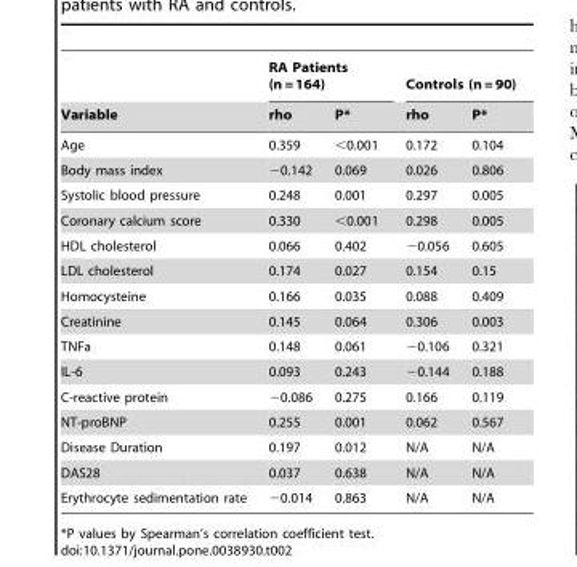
<table><thead><tr><td rowspan="2">Variable</td><td colspan="2">RA Patients (n = 164)</td><td colspan="2">Controls (n = 90)</td></tr><tr><td>rho</td><td>P*</td><td>rho</td><td>P*</td></tr></thead><tbody><tr><td>Age</td><td>0.359</td><td>&lt;0.001</td><td>0.172</td><td>0.104</td></tr><tr><td>Body mass index</td><td>−0.142</td><td>0.069</td><td>0.026</td><td>0.806</td></tr><tr><td>Systolic blood pressure</td><td>0.248</td><td>0.001</td><td>0.297</td><td>0.005</td></tr><tr><td>Coronary calcium score</td><td>0.330</td><td>&lt;0.001</td><td>0.298</td><td>0.005</td></tr><tr><td>HDL cholesterol</td><td>0.066</td><td>0.402</td><td>−0.056</td><td>0.605</td></tr><tr><td>LDL cholesterol</td><td>0.174</td><td>0.027</td><td>0.154</td><td>0.15</td></tr><tr><td>Homocysteine</td><td>0.166</td><td>0.035</td><td>0.088</td><td>0.409</td></tr><tr><td>Creatinine</td><td>0.145</td><td>0.064</td><td>0.306</td><td>0.003</td></tr><tr><td>TNFa</td><td>0.148</td><td>0.061</td><td>−0.106</td><td>0.321</td></tr><tr><td>IL-6</td><td>0.093</td><td>0.243</td><td>−0.144</td><td>0.188</td></tr><tr><td>C-reactive protein</td><td>−0.086</td><td>0.275</td><td>0.166</td><td>0.119</td></tr><tr><td>NT-proBNP</td><td>0.255</td><td>0.001</td><td>0.062</td><td>0.567</td></tr><tr><td>Disease Duration</td><td>0.197</td><td>0.012</td><td>N/A</td><td>N/A</td></tr><tr><td>DAS28</td><td>0.037</td><td>0.638</td><td>N/A</td><td>N/A</td></tr><tr><td>Erythrocyte sedimentation rate</td><td>−0.014</td><td>0.863</td><td>N/A</td><td>N/A</td></tr></tbody></table>